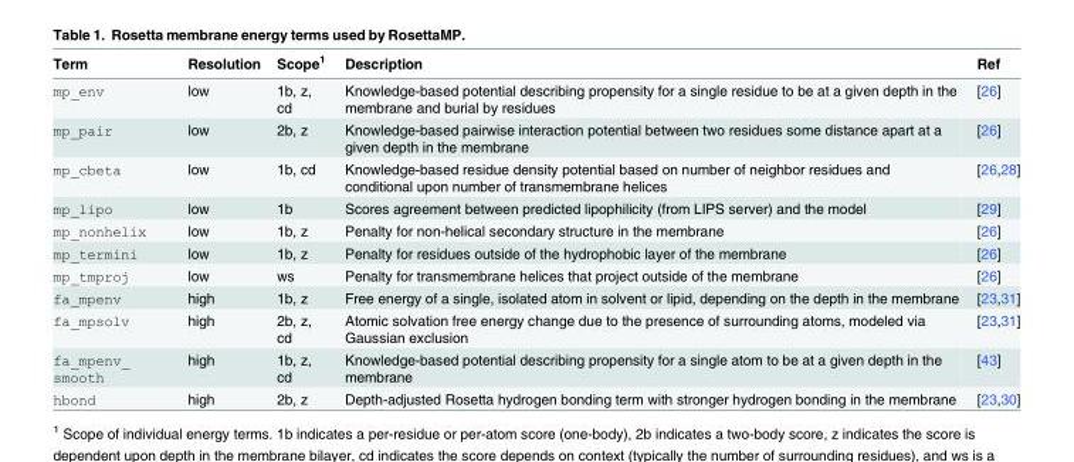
<table><thead><tr><td>Term</td><td>Resolution</td><td>Scope<sup>1</sup></td><td>Description</td><td>Ref</td></tr></thead><tbody><tr><td>mp_env</td><td>low</td><td>1b, z, cd</td><td>Knowledge-based potential describing propensity for a single residue to be at a given depth in the membrane and burial by residues</td><td>[26]</td></tr><tr><td>mp_pair</td><td>low</td><td>2b, z</td><td>Knowledge-based pairwise interaction potential between two residues some distance apart at a given depth in the membrane</td><td>[26]</td></tr><tr><td>mp_cbeta</td><td>low</td><td>1b, cd</td><td>Knowledge-based residue density potential based on number of neighbor residues and conditional upon number of transmembrane helices</td><td>[26,28]</td></tr><tr><td>mp_lipo</td><td>low</td><td>1b</td><td>Scores agreement between predicted lipophilicity (from LIPS server) and the model</td><td>[29]</td></tr><tr><td>mp_nonhelix</td><td>low</td><td>1b, z</td><td>Penalty for non-helical secondary structure in the membrane</td><td>[26]</td></tr><tr><td>mp_termini</td><td>low</td><td>1b, z</td><td>Penalty for residues outside of the hydrophobic layer of the membrane</td><td>[26]</td></tr><tr><td>mp_tmproj</td><td>low</td><td>ws</td><td>Penalty for transmembrane helices that project outside of the membrane</td><td>[26]</td></tr><tr><td>fa_mpenv</td><td>high</td><td>1b, z</td><td>Free energy of a single, isolated atom in solvent or lipid, depending on the depth in the membrane</td><td>[23,31]</td></tr><tr><td>fa_mpsolv</td><td>high</td><td>2b, z, cd</td><td>Atomic solvation free energy change due to the presence of surrounding atoms, modeled via Gaussian exclusion</td><td>[23,31]</td></tr><tr><td>fa_mpenv_ smooth</td><td>high</td><td>1b, z, cd</td><td>Knowledge-based potential describing propensity for a single atom to be at a given depth in the membrane</td><td>[43]</td></tr><tr><td>hbond</td><td>high</td><td>2b, z</td><td>Depth-adjusted Rosetta hydrogen bonding term with stronger hydrogen bonding in the membrane</td><td>[23,30]</td></tr></tbody></table>